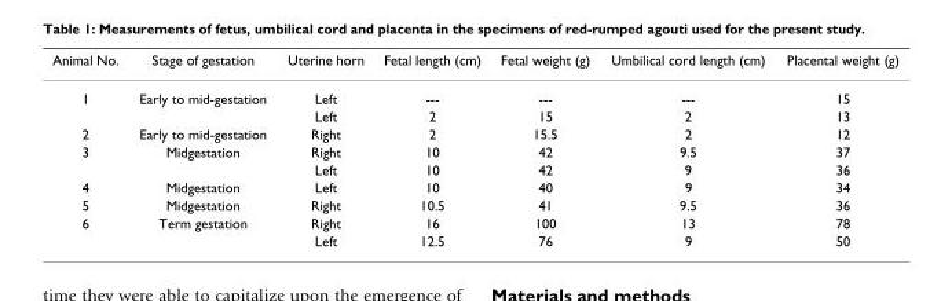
<table><thead><tr><td>Animal No.</td><td>Stage of gestation</td><td>Uterine horn</td><td>Fetal length (cm)</td><td>Fetal weight (g)</td><td>Umbilical cord length (cm)</td><td>Placental weight (g)</td></tr></thead><tbody><tr><td rowspan="2">1</td><td>Early to mid-gestation</td><td>Left</td><td>---</td><td>---</td><td>---</td><td>15</td></tr><tr><td></td><td>Left</td><td>2</td><td>15</td><td>2</td><td>13</td></tr><tr><td>2</td><td>Early to mid-gestation</td><td>Right</td><td>2</td><td>15.5</td><td>2</td><td>12</td></tr><tr><td rowspan="2">3</td><td>Midgestation</td><td>Right</td><td>10</td><td>42</td><td>9.5</td><td>37</td></tr><tr><td></td><td>Left</td><td>10</td><td>42</td><td>9</td><td>36</td></tr><tr><td>4</td><td>Midgestation</td><td>Left</td><td>10</td><td>40</td><td>9</td><td>34</td></tr><tr><td>5</td><td>Midgestation</td><td>Right</td><td>10.5</td><td>41</td><td>9.5</td><td>36</td></tr><tr><td rowspan="2">6</td><td>Term gestation</td><td>Right</td><td>16</td><td>100</td><td>13</td><td>78</td></tr><tr><td></td><td>Left</td><td>12.5</td><td>76</td><td>9</td><td>50</td></tr></tbody></table>